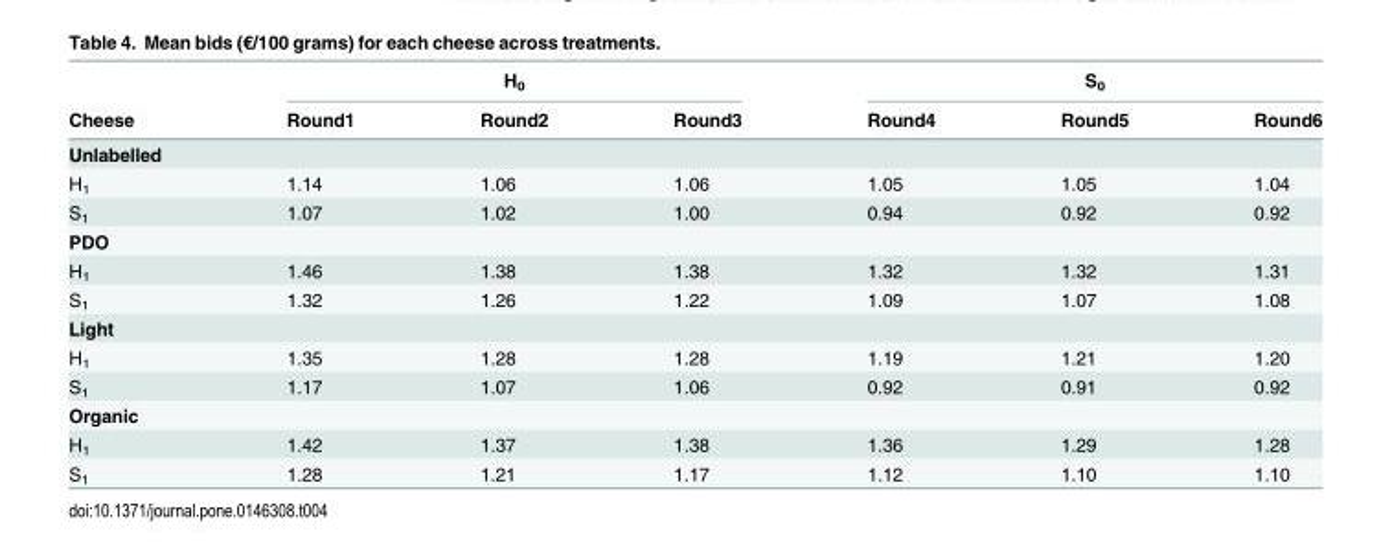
<table><thead><tr><td rowspan="2">Cheese</td><td colspan="3">H<sub>0</sub></td><td colspan="3">S<sub>0</sub></td></tr><tr><td>Round1</td><td>Round2</td><td>Round3</td><td>Round4</td><td>Round5</td><td>Round6</td></tr></thead><tbody><tr><td colspan="7">Unlabelled</td></tr><tr><td>H<sub>1</sub></td><td>1.14</td><td>1.06</td><td>1.06</td><td>1.05</td><td>1.05</td><td>1.04</td></tr><tr><td>S<sub>1</sub></td><td>1.07</td><td>1.02</td><td>1.00</td><td>0.94</td><td>0.92</td><td>0.92</td></tr><tr><td colspan="7">PDO</td></tr><tr><td>H<sub>1</sub></td><td>1.46</td><td>1.38</td><td>1.38</td><td>1.32</td><td>1.32</td><td>1.31</td></tr><tr><td>S<sub>1</sub></td><td>1.32</td><td>1.26</td><td>1.22</td><td>1.09</td><td>1.07</td><td>1.08</td></tr><tr><td colspan="7">Light</td></tr><tr><td>H<sub>1</sub></td><td>1.35</td><td>1.28</td><td>1.28</td><td>1.19</td><td>1.21</td><td>1.20</td></tr><tr><td>S<sub>1</sub></td><td>1.17</td><td>1.07</td><td>1.06</td><td>0.92</td><td>0.91</td><td>0.92</td></tr><tr><td colspan="7">Organic</td></tr><tr><td>H<sub>1</sub></td><td>1.42</td><td>1.37</td><td>1.38</td><td>1.36</td><td>1.29</td><td>1.28</td></tr><tr><td>S<sub>1</sub></td><td>1.28</td><td>1.21</td><td>1.17</td><td>1.12</td><td>1.10</td><td>1.10</td></tr></tbody></table>